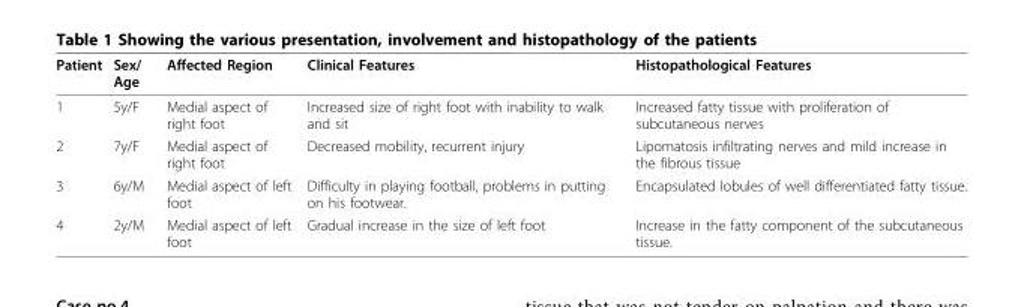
<table><thead><tr><td>Patient</td><td>Sex/ Age</td><td>Affected Region</td><td>Clinical Features</td><td>Histopathological Features</td></tr></thead><tbody><tr><td>1</td><td>5y/F</td><td>Medial aspect of right foot</td><td>Increased size of right foot with inability to walk and sit</td><td>Increased fatty tissue with proliferation of subcutaneous nerves</td></tr><tr><td>2</td><td>7y/F</td><td>Medial aspect of right foot</td><td>Decreased mobility, recurrent injury</td><td>Lipomatosis infiltrating nerves and mild increase in the fibrous tissue</td></tr><tr><td>3</td><td>6y/M</td><td>Medial aspect of left foot</td><td>Difficulty in playing football, problems in putting on his footwear.</td><td>Encapsulated lobules of well differentiated fatty tissue.</td></tr><tr><td>4</td><td>2y/M</td><td>Medial aspect of left foot</td><td>Gradual increase in the size of left foot</td><td>Increase in the fatty component of the subcutaneous tissue.</td></tr></tbody></table>